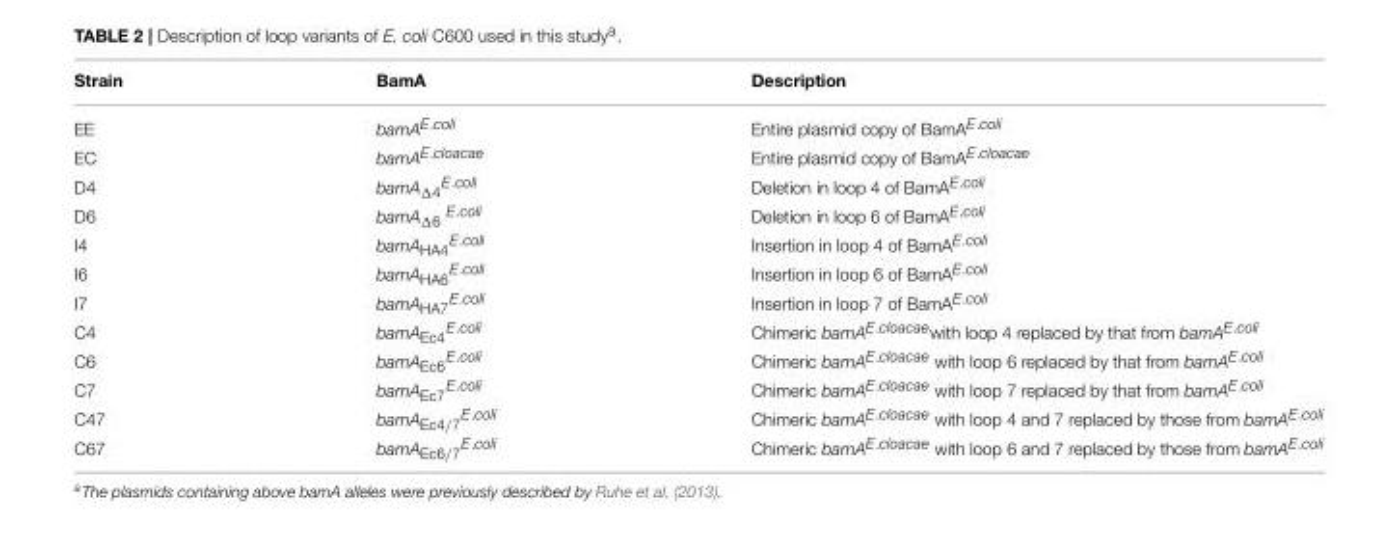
<table><thead><tr><td>Strain</td><td>BamA</td><td>Description</td></tr></thead><tbody><tr><td>EE</td><td>bamAE.coli</td><td>Entire plasmid copy of BamAE.coli</td></tr><tr><td>EC</td><td>bamAE.cloacae</td><td>Entire plasmid copy of BamAE.cloacae</td></tr><tr><td>D4</td><td>bamAΔ4E.coli</td><td>Deletion in loop 4 of BamAE.coli</td></tr><tr><td>D6</td><td>bamAΔ6 E.coli</td><td>Deletion in loop 6 of BamAE.coli</td></tr><tr><td>I4</td><td>bamAHA4E.coli</td><td>Insertion in loop 4 of BamAE.coli</td></tr><tr><td>I6</td><td>bamAHA6E.coli</td><td>Insertion in loop 6 of BamAE.coli</td></tr><tr><td>I7</td><td>bamAHA7E.coli</td><td>Insertion in loop 7 of BamAE.coli</td></tr><tr><td>C4</td><td>bamAEc4E.coli</td><td>Chimeric bamAE.cloacaewith loop 4 replaced by that from bamAE.coli</td></tr><tr><td>C6</td><td>bamAEc6E.coli</td><td>Chimeric bamAE.cloacae with loop 6 replaced by that from bamAE.coli</td></tr><tr><td>C7</td><td>bamAEc7E.coli</td><td>Chimeric bamAE.cloacae with loop 7 replaced by that from bamAE.coli</td></tr><tr><td>C47</td><td>bamAEc4/7E.coli</td><td>Chimeric bamAE.cloacae with loop 4 and 7 replaced by those from bamAE.coli</td></tr><tr><td>C67</td><td>bamAEc6/7E.coli</td><td>Chimeric bamAE.cloacae with loop 6 and 7 replaced by those from bamAE.coli</td></tr></tbody></table>